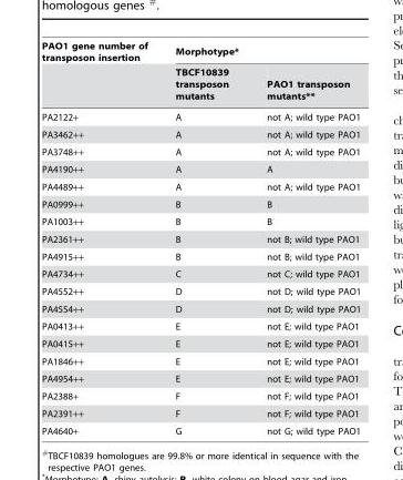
<table><thead><tr><td rowspan="2">PAO1 gene number of transposon insertion</td><td colspan="2">Morphotype*</td></tr><tr><td>TBCF10839 transposon mutants</td><td>PAO1 transposon mutants**</td></tr></thead><tbody><tr><td>PA2122+</td><td>A</td><td>not A; wild type PAO1</td></tr><tr><td>PA3462++</td><td>A</td><td>not A; wild type PAO1</td></tr><tr><td>PA3748++</td><td>A</td><td>not A; wild type PAO1</td></tr><tr><td>PA4190++</td><td>A</td><td>A</td></tr><tr><td>PA4489++</td><td>A</td><td>not A; wild type PAO1</td></tr><tr><td>PA0999++</td><td>B</td><td>B</td></tr><tr><td>PA1003++</td><td>B</td><td>B</td></tr><tr><td>PA2361++</td><td>B</td><td>not B; wild type PAO1</td></tr><tr><td>PA4915++</td><td>B</td><td>not B; wild type PAO1</td></tr><tr><td>PA4734++</td><td>C</td><td>not C; wild type PAO1</td></tr><tr><td>PA4552++</td><td>D</td><td>not D; wild type PAO1</td></tr><tr><td>PA4554++</td><td>D</td><td>not D; wild type PAO1</td></tr><tr><td>PA0413++</td><td>E</td><td>not E; wild type PAO1</td></tr><tr><td>PA0415++</td><td>E</td><td>not E; wild type PAO1</td></tr><tr><td>PA1846++</td><td>E</td><td>not E; wild type PAO1</td></tr><tr><td>PA4954++</td><td>E</td><td>not E; wild type PAO1</td></tr><tr><td>PA2388+</td><td>F</td><td>not F; wild type PAO1</td></tr><tr><td>PA2391++</td><td>F</td><td>not F; wild type PAO1</td></tr><tr><td>PA4640+</td><td>G</td><td>not G; wild type PAO1</td></tr></tbody></table>